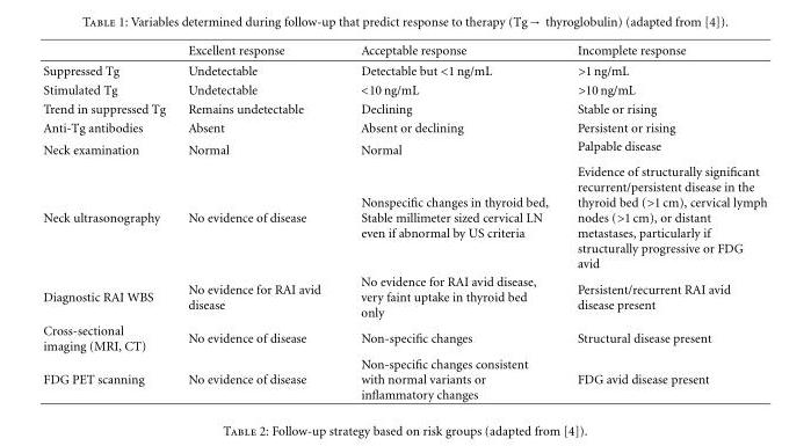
<table><thead><tr><td></td><td>Excellent response</td><td>Acceptable response</td><td>Incomplete response</td></tr></thead><tbody><tr><td>Suppressed Tg</td><td>Undetectable</td><td>Detectable but &lt;1 ng/mL</td><td>&gt;1 ng/mL</td></tr><tr><td>Stimulated Tg</td><td>Undetectable</td><td>&lt;10 ng/mL</td><td>&gt;10 ng/mL</td></tr><tr><td>Trend in suppressed Tg</td><td>Remains undetectable</td><td>Declining</td><td>Stable or rising</td></tr><tr><td>Anti-Tg antibodies</td><td>Absent</td><td>Absent or declining</td><td>Persistent or rising</td></tr><tr><td>Neck examination</td><td>Normal</td><td>Normal</td><td>Palpable disease</td></tr><tr><td>Neck ultrasonography</td><td>No evidence of disease</td><td>Nonspecific changes in thyroid bed, Stable millimeter sized cervical LN even if abnormal by US criteria</td><td>Evidence of structurally significant recurrent/persistent disease in the thyroid bed (&gt;1 cm), cervical lymph nodes (&gt;1 cm), or distant metastases, particularly if structurally progressive or FDG avid</td></tr><tr><td>Diagnostic RAI WBS</td><td>No evidence for RAI avid disease</td><td>No evidence for RAI avid disease, very faint uptake in thyroid bed only</td><td>Persistent/recurrent RAI avid disease present</td></tr><tr><td>Cross-sectional imaging (MRI, CT)</td><td>No evidence of disease</td><td>Non-specific changes</td><td>Structural disease present</td></tr><tr><td>FDG PET scanning</td><td>No evidence of disease</td><td>Non-specific changes consistent with normal variants or inflammatory changes</td><td>FDG avid disease present</td></tr></tbody></table>